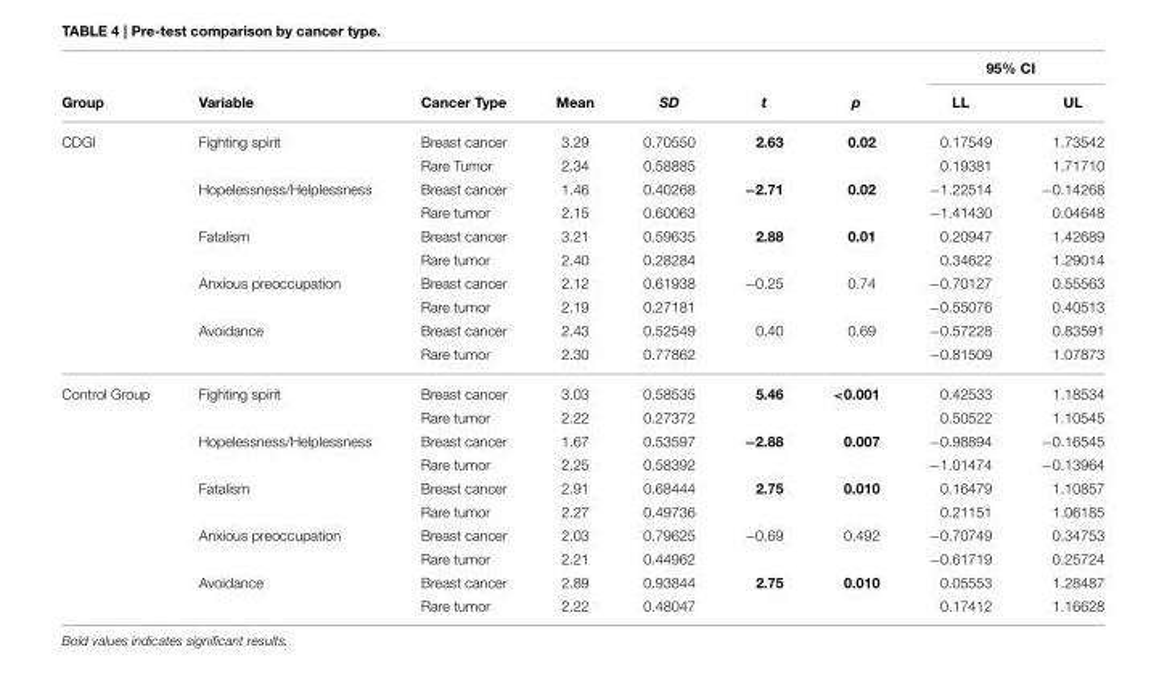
<table><thead><tr><td rowspan="2">Group</td><td rowspan="2">Variable</td><td rowspan="2">Cancer Type</td><td rowspan="2">Mean</td><td rowspan="2">SD</td><td rowspan="2">t</td><td rowspan="2">p</td><td colspan="2">95% CI</td></tr><tr><td>LL</td><td>UL</td></tr></thead><tbody><tr><td rowspan="10">CDGI</td><td>Fighting spirit</td><td>Breast cancer</td><td>3.29</td><td>0.70550</td><td>2.63</td><td>0.02</td><td>0.17549</td><td>1.73542</td></tr><tr><td></td><td>Rare Tumor</td><td>2.34</td><td>0.58885</td><td></td><td></td><td>0.19381</td><td>1.71710</td></tr><tr><td>Hopelessness/Helplessness</td><td>Breast cancer</td><td>1.46</td><td>0.40268</td><td>−2.71</td><td>0.02</td><td>−1.22514</td><td>−0.14268</td></tr><tr><td></td><td>Rare tumor</td><td>2.15</td><td>0.60063</td><td></td><td></td><td>−1.41430</td><td>0.04648</td></tr><tr><td>Fatalism</td><td>Breast cancer</td><td>3.21</td><td>0.59635</td><td>2.88</td><td>0.01</td><td>0.20947</td><td>1.42689</td></tr><tr><td></td><td>Rare tumor</td><td>2.40</td><td>0.28284</td><td></td><td></td><td>0.34622</td><td>1.29014</td></tr><tr><td>Anxious preoccupation</td><td>Breast cancer</td><td>2.12</td><td>0.61938</td><td>−0.25</td><td>0.74</td><td>−0.70127</td><td>0.55563</td></tr><tr><td></td><td>Rare tumor</td><td>2.19</td><td>0.27181</td><td></td><td></td><td>−0.55076</td><td>0.40513</td></tr><tr><td>Avoidance</td><td>Breast cancer</td><td>2.43</td><td>0.52549</td><td>0.40</td><td>0.69</td><td>−0.57228</td><td>0.83591</td></tr><tr><td></td><td>Rare tumor</td><td>2.30</td><td>0.77862</td><td></td><td></td><td>−0.81509</td><td>1.07873</td></tr><tr><td rowspan="10">Control Group</td><td>Fighting spirit</td><td>Breast cancer</td><td>3.03</td><td>0.58535</td><td>5.46</td><td>&lt;0.001</td><td>0.42533</td><td>1.18534</td></tr><tr><td></td><td>Rare tumor</td><td>2.22</td><td>0.27372</td><td></td><td></td><td>0.50522</td><td>1.10545</td></tr><tr><td>Hopelessness/Helplessness</td><td>Breast cancer</td><td>1.67</td><td>0.53597</td><td>−2.88</td><td>0.007</td><td>−0.98894</td><td>−0.16545</td></tr><tr><td></td><td>Rare tumor</td><td>2.25</td><td>0.58392</td><td></td><td></td><td>−1.01474</td><td>−0.13964</td></tr><tr><td>Fatalism</td><td>Breast cancer</td><td>2.91</td><td>0.68444</td><td>2.75</td><td>0.010</td><td>0.16479</td><td>1.10857</td></tr><tr><td></td><td>Rare tumor</td><td>2.27</td><td>0.49736</td><td></td><td></td><td>0.21151</td><td>1.06185</td></tr><tr><td>Anxious preoccupation</td><td>Breast cancer</td><td>2.03</td><td>0.79625</td><td>−0.69</td><td>0.492</td><td>−0.70749</td><td>0.34753</td></tr><tr><td></td><td>Rare tumor</td><td>2.21</td><td>0.44962</td><td></td><td></td><td>−0.61719</td><td>0.25724</td></tr><tr><td>Avoidance</td><td>Breast cancer</td><td>2.89</td><td>0.93844</td><td>2.75</td><td>0.010</td><td>0.05553</td><td>1.28487</td></tr><tr><td></td><td>Rare tumor</td><td>2.22</td><td>0.48047</td><td></td><td></td><td>0.17412</td><td>1.16628</td></tr></tbody></table>